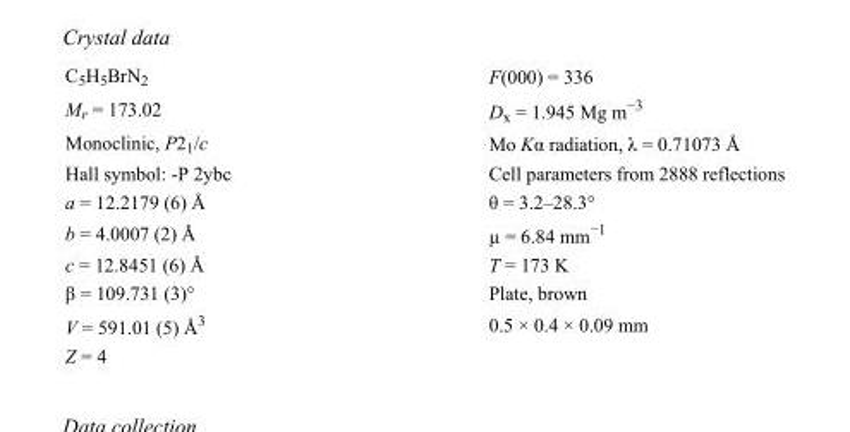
<table><tbody><tr><td>C<sub>5</sub>H<sub>5</sub>BrN<sub>2</sub></td><td>F(000) = 336</td></tr><tr><td>M<sub>r</sub> = 173.02</td><td>D<sub>x</sub> = 1.945 Mg m<sup>−3</sup></td></tr><tr><td>Monoclinic, P2<sub>1</sub>/c</td><td>Mo Kα radiation, λ = 0.71073 Å</td></tr><tr><td>Hall symbol: -P 2ybc</td><td>Cell parameters from 2888 reflections</td></tr><tr><td>a = 12.2179 (6) Å</td><td>θ = 3.2–28.3°</td></tr><tr><td>b = 4.0007 (2) Å</td><td>µ = 6.84 mm<sup>−1</sup></td></tr><tr><td>c = 12.8451 (6) Å</td><td>T = 173 K</td></tr><tr><td>β = 109.731 (3)°</td><td>Plate, brown</td></tr><tr><td>V = 591.01 (5) Å<sup>3</sup></td><td>0.5 × 0.4 × 0.09 mm</td></tr><tr><td>Z = 4</td><td></td></tr></tbody></table>